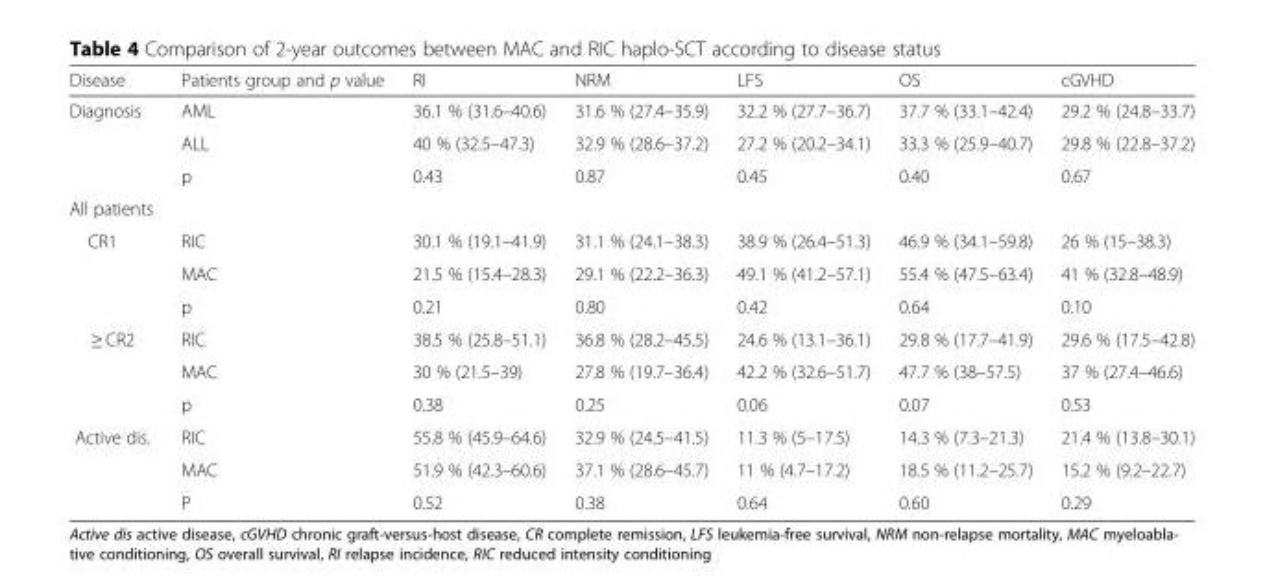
<table><thead><tr><td>Disease</td><td>Patients group and p value</td><td>RI</td><td>NRM</td><td>LFS</td><td>OS</td><td>cGVHD</td></tr></thead><tbody><tr><td rowspan="3">Diagnosis</td><td>AML</td><td>36.1 % (31.6–40.6)</td><td>31.6 % (27.4–35.9)</td><td>32.2 % (27.7–36.7)</td><td>37.7 % (33.1–42.4)</td><td>29.2 % (24.8–33.7)</td></tr><tr><td>ALL</td><td>40 % (32.5–47.3)</td><td>32.9 % (28.6–37.2)</td><td>27.2 % (20.2–34.1)</td><td>33.3 % (25.9–40.7)</td><td>29.8 % (22.8–37.2)</td></tr><tr><td>p</td><td>0.43</td><td>0.87</td><td>0.45</td><td>0.40</td><td>0.67</td></tr><tr><td colspan="7">All patients</td></tr><tr><td rowspan="3">CR1</td><td>RIC</td><td>30.1 % (19.1–41.9)</td><td>31.1 % (24.1–38.3)</td><td>38.9 % (26.4–51.3)</td><td>46.9 % (34.1–59.8)</td><td>26 % (15–38.3)</td></tr><tr><td>MAC</td><td>21.5 % (15.4–28.3)</td><td>29.1 % (22.2–36.3)</td><td>49.1 % (41.2–57.1)</td><td>55.4 % (47.5–63.4)</td><td>41 % (32.8–48.9)</td></tr><tr><td>p</td><td>0.21</td><td>0.80</td><td>0.42</td><td>0.64</td><td>0.10</td></tr><tr><td rowspan="3">≥ CR2</td><td>RIC</td><td>38.5 % (25.8–51.1)</td><td>36.8 % (28.2–45.5)</td><td>24.6 % (13.1–36.1)</td><td>29.8 % (17.7–41.9)</td><td>29.6 % (17.5–42.8)</td></tr><tr><td>MAC</td><td>30 % (21.5–39)</td><td>27.8 % (19.7–36.4)</td><td>42.2 % (32.6–51.7)</td><td>47.7 % (38–57.5)</td><td>37 % (27.4–46.6)</td></tr><tr><td>p</td><td>0.38</td><td>0.25</td><td>0.06</td><td>0.07</td><td>0.53</td></tr><tr><td rowspan="3">Active dis.</td><td>RIC</td><td>55.8 % (45.9–64.6)</td><td>32.9 % (24.5–41.5)</td><td>11.3 % (5–17.5)</td><td>14.3 % (7.3–21.3)</td><td>21.4 % (13.8–30.1)</td></tr><tr><td>MAC</td><td>51.9 % (42.3–60.6)</td><td>37.1 % (28.6–45.7)</td><td>11 % (4.7–17.2)</td><td>18.5 % (11.2–25.7)</td><td>15.2 % (9.2–22.7)</td></tr><tr><td>P</td><td>0.52</td><td>0.38</td><td>0.64</td><td>0.60</td><td>0.29</td></tr></tbody></table>